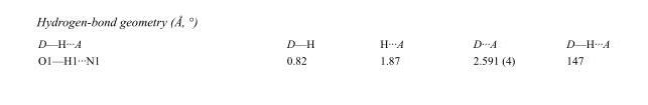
<table><tbody><tr><td>D—H···A</td><td>D—H</td><td>H···A</td><td>D···A</td><td>D—H···A</td></tr><tr><td>O1—H1···N1</td><td>0.82</td><td>1.87</td><td>2.591 (4)</td><td>147</td></tr></tbody></table>